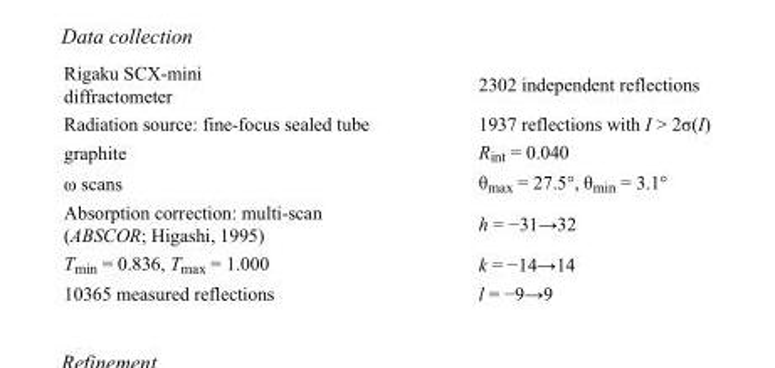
<table><tbody><tr><td>Rigaku SCX-mini diffractometer</td><td>2302 independent reflections</td></tr><tr><td>Radiation source: fine-focus sealed tube</td><td>1937 reflections with I &gt; 2σ(I)</td></tr><tr><td>graphite</td><td>R<sub>int</sub> = 0.040</td></tr><tr><td>ω scans</td><td>θ<sub>max</sub> = 27.5°, θ<sub>min</sub> = 3.1°</td></tr><tr><td>Absorption correction: multi-scan (ABSCOR; Higashi, 1995)</td><td>h = −31→32</td></tr><tr><td>T<sub>min</sub> = 0.836, T<sub>max</sub> = 1.000</td><td>k = −14→14</td></tr><tr><td>10365 measured reflections</td><td>l = −9→9</td></tr></tbody></table>